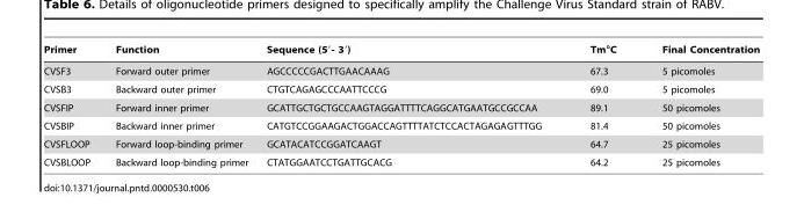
<table><thead><tr><td>Primer</td><td>Function</td><td>Sequence (5′- 3′)</td><td>Tm°C</td><td>Final Concentration</td></tr></thead><tbody><tr><td>CVSF3</td><td>Forward outer primer</td><td>AGCCCCCGACTTGAACAAAG</td><td>67.3</td><td>5 picomoles</td></tr><tr><td>CVSB3</td><td>Backward outer primer</td><td>CTGTCAGAGCCCAATTCCCG</td><td>69.0</td><td>5 picomoles</td></tr><tr><td>CVSFIP</td><td>Forward inner primer</td><td>GCATTGCTGCTGCCAAGTAGGATTTTCAGGCATGAATGCCGCCAA</td><td>89.1</td><td>50 picomoles</td></tr><tr><td>CVSBIP</td><td>Backward inner primer</td><td>CATGTCCGGAAGACTGGACCAGTTTTATCTCCACTAGAGAGTTTGG</td><td>81.4</td><td>50 picomoles</td></tr><tr><td>CVSFLOOP</td><td>Forward loop-binding primer</td><td>GCATACATCCGGATCAAGT</td><td>64.7</td><td>25 picomoles</td></tr><tr><td>CVSBLOOP</td><td>Backward loop-binding primer</td><td>CTATGGAATCCTGATTGCACG</td><td>64.2</td><td>25 picomoles</td></tr></tbody></table>